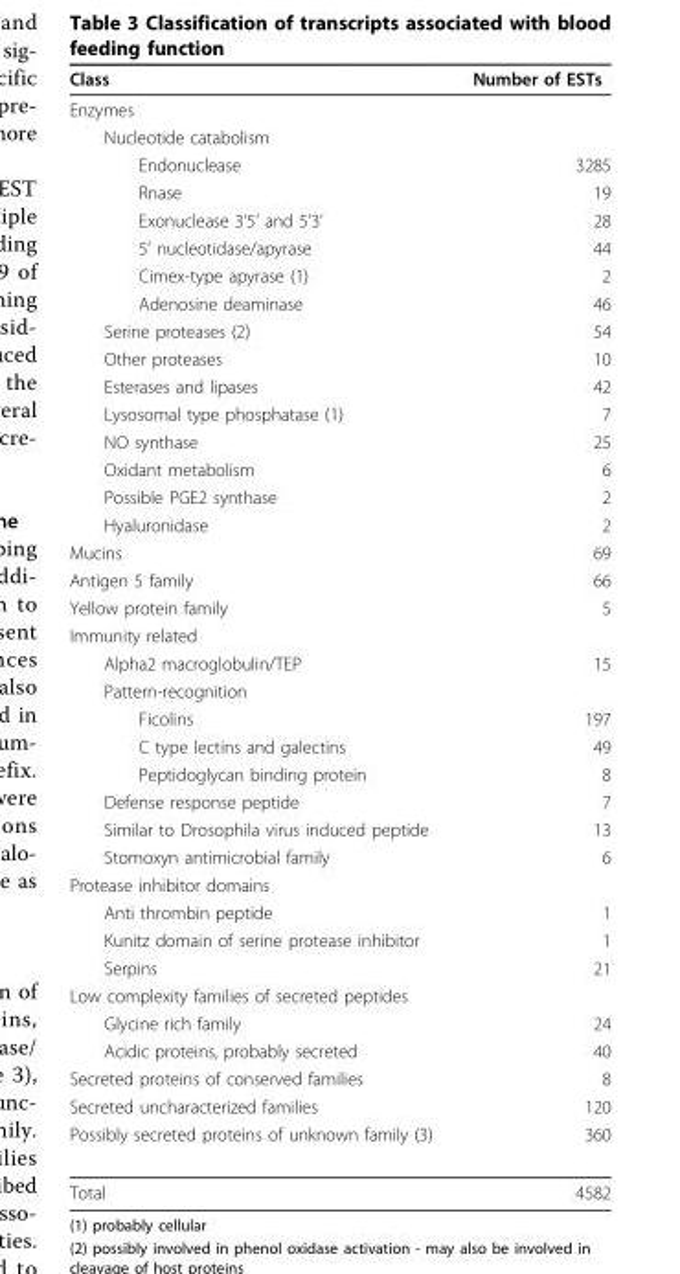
<table><thead><tr><td>Class</td><td>Number of ESTs</td></tr></thead><tbody><tr><td colspan="2">Enzymes</td></tr><tr><td colspan="2">Nucleotide catabolism</td></tr><tr><td>Endonuclease</td><td>3285</td></tr><tr><td>Rnase</td><td>19</td></tr><tr><td>Exonuclease 3’5’ and 5’3’</td><td>28</td></tr><tr><td>5’ nucleotidase/apyrase</td><td>44</td></tr><tr><td>Cimex-type apyrase (1)</td><td>2</td></tr><tr><td>Adenosine deaminase</td><td>46</td></tr><tr><td>Serine proteases (2)</td><td>54</td></tr><tr><td>Other proteases</td><td>10</td></tr><tr><td>Esterases and lipases</td><td>42</td></tr><tr><td>Lysosomal type phosphatase (1)</td><td>7</td></tr><tr><td>NO synthase</td><td>25</td></tr><tr><td>Oxidant metabolism</td><td>6</td></tr><tr><td>Possible PGE2 synthase</td><td>2</td></tr><tr><td>Hyaluronidase</td><td>2</td></tr><tr><td>Mucins</td><td>69</td></tr><tr><td>Antigen 5 family</td><td>66</td></tr><tr><td>Yellow protein family</td><td>5</td></tr><tr><td colspan="2">Immunity related</td></tr><tr><td>Alpha2 macroglobulin/TEP</td><td>15</td></tr><tr><td colspan="2">Pattern-recognition</td></tr><tr><td>Ficolins</td><td>197</td></tr><tr><td>C type lectins and galectins</td><td>49</td></tr><tr><td>Peptidoglycan binding protein</td><td>8</td></tr><tr><td>Defense response peptide</td><td>7</td></tr><tr><td>Similar to Drosophila virus induced peptide</td><td>13</td></tr><tr><td>Stomoxyn antimicrobial family</td><td>6</td></tr><tr><td colspan="2">Protease inhibitor domains</td></tr><tr><td>Anti thrombin peptide</td><td>1</td></tr><tr><td>Kunitz domain of serine protease inhibitor</td><td>1</td></tr><tr><td>Serpins</td><td>21</td></tr><tr><td colspan="2">Low complexity families of secreted peptides</td></tr><tr><td>Glycine rich family</td><td>24</td></tr><tr><td>Acidic proteins, probably secreted</td><td>40</td></tr><tr><td>Secreted proteins of conserved families</td><td>8</td></tr><tr><td>Secreted uncharacterized families</td><td>120</td></tr><tr><td>Possibly secreted proteins of unknown family (3)</td><td>360</td></tr><tr><td>Total</td><td>4582</td></tr></tbody></table>